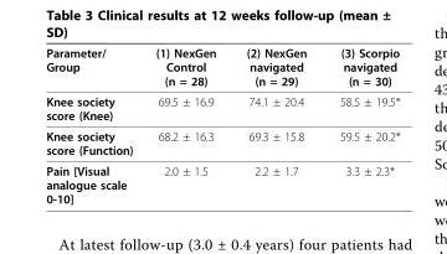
<table><thead><tr><td>Parameter/ Group</td><td>(1) NexGen Control (n = 28)</td><td>(2) NexGen navigated (n = 29)</td><td>(3) Scorpio navigated (n = 30)</td></tr></thead><tbody><tr><td>Knee society score (Knee)</td><td>69.5 ± 16.9</td><td>74.1 ± 20.4</td><td>58.5 ± 19.5*</td></tr><tr><td>Knee society score (Function)</td><td>68.2 ± 16.3</td><td>69.3 ± 15.8</td><td>59.5 ± 20.2*</td></tr><tr><td>Pain [Visual analogue scale 0-10]</td><td>2.0 ± 1.5</td><td>2.2 ± 1.7</td><td>3.3 ± 2.3*</td></tr></tbody></table>